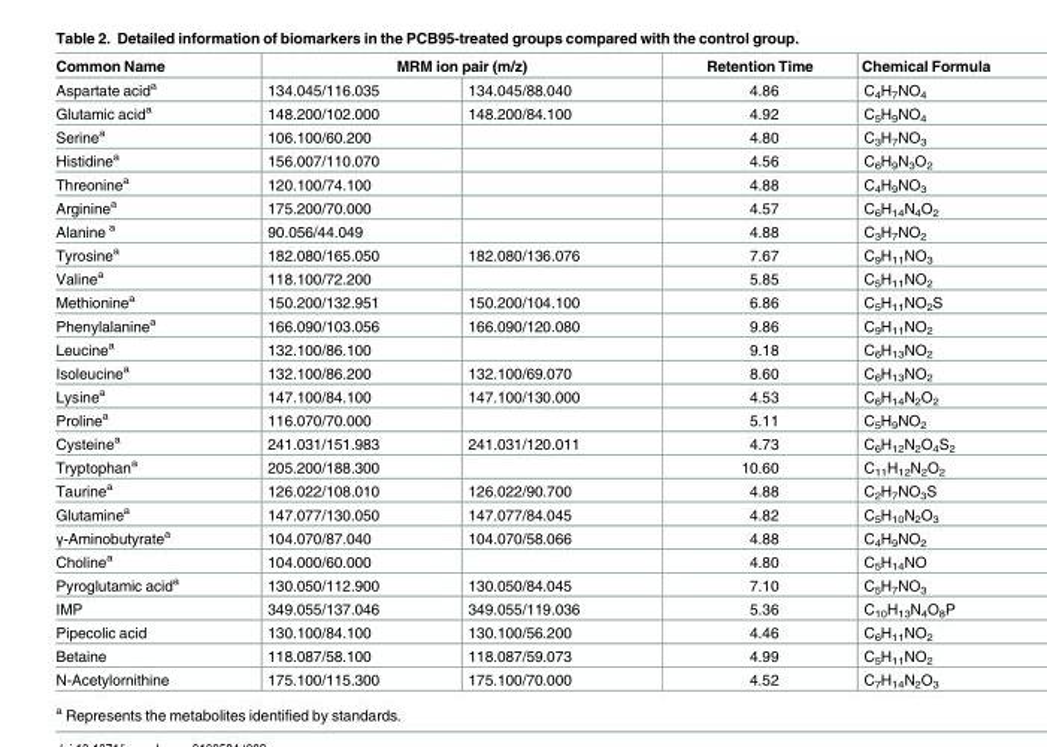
<table><thead><tr><td rowspan="2">Common Name Aspartate acid<sup>a</sup></td><td colspan="2">MRM ion pair (m/z)</td><td rowspan="2">Retention Time 4.86</td><td rowspan="2">Chemical Formula C<sub>4</sub>H<sub>7</sub>NO<sub>4</sub></td></tr><tr><td>134.045/116.035</td><td>134.045/88.040</td></tr></thead><tbody><tr><td>Glutamic acid<sup>a</sup></td><td>148.200/102.000</td><td>148.200/84.100</td><td>4.92</td><td>C<sub>5</sub>H<sub>9</sub>NO<sub>4</sub></td></tr><tr><td>Serine<sup>a</sup></td><td>106.100/60.200</td><td></td><td>4.80</td><td>C<sub>3</sub>H<sub>7</sub>NO<sub>3</sub></td></tr><tr><td>Histidine<sup>a</sup></td><td>156.007/110.070</td><td></td><td>4.56</td><td>C<sub>6</sub>H<sub>9</sub>N<sub>3</sub>O<sub>2</sub></td></tr><tr><td>Threonine<sup>a</sup></td><td>120.100/74.100</td><td></td><td>4.88</td><td>C<sub>4</sub>H<sub>9</sub>NO<sub>3</sub></td></tr><tr><td>Arginine<sup>a</sup></td><td>175.200/70.000</td><td></td><td>4.57</td><td>C<sub>6</sub>H<sub>14</sub>N<sub>4</sub>O<sub>2</sub></td></tr><tr><td>Alanine <sup>a</sup></td><td>90.056/44.049</td><td></td><td>4.88</td><td>C<sub>3</sub>H<sub>7</sub>NO<sub>2</sub></td></tr><tr><td>Tyrosine<sup>a</sup></td><td>182.080/165.050</td><td>182.080/136.076</td><td>7.67</td><td>C<sub>9</sub>H<sub>11</sub>NO<sub>3</sub></td></tr><tr><td>Valine<sup>a</sup></td><td>118.100/72.200</td><td></td><td>5.85</td><td>C<sub>5</sub>H<sub>11</sub>NO<sub>2</sub></td></tr><tr><td>Methionine<sup>a</sup></td><td>150.200/132.951</td><td>150.200/104.100</td><td>6.86</td><td>C<sub>5</sub>H<sub>11</sub>NO<sub>2</sub>S</td></tr><tr><td>Phenylalanine<sup>a</sup></td><td>166.090/103.056</td><td>166.090/120.080</td><td>9.86</td><td>C<sub>9</sub>H<sub>11</sub>NO<sub>2</sub></td></tr><tr><td>Leucine<sup>a</sup></td><td>132.100/86.100</td><td></td><td>9.18</td><td>C<sub>6</sub>H<sub>13</sub>NO<sub>2</sub></td></tr><tr><td>Isoleucine<sup>a</sup></td><td>132.100/86.200</td><td>132.100/69.070</td><td>8.60</td><td>C<sub>6</sub>H<sub>13</sub>NO<sub>2</sub></td></tr><tr><td>Lysine<sup>a</sup></td><td>147.100/84.100</td><td>147.100/130.000</td><td>4.53</td><td>C<sub>6</sub>H<sub>14</sub>N<sub>2</sub>O<sub>2</sub></td></tr><tr><td>Proline<sup>a</sup></td><td>116.070/70.000</td><td></td><td>5.11</td><td>C<sub>5</sub>H<sub>9</sub>NO<sub>2</sub></td></tr><tr><td>Cysteine<sup>a</sup></td><td>241.031/151.983</td><td>241.031/120.011</td><td>4.73</td><td>C<sub>6</sub>H<sub>12</sub>N<sub>2</sub>O<sub>4</sub>S<sub>2</sub></td></tr><tr><td>Tryptophan<sup>a</sup></td><td>205.200/188.300</td><td></td><td>10.60</td><td>C<sub>11</sub>H<sub>12</sub>N<sub>2</sub>O<sub>2</sub></td></tr><tr><td>Taurine<sup>a</sup></td><td>126.022/108.010</td><td>126.022/90.700</td><td>4.88</td><td>C<sub>2</sub>H<sub>7</sub>NO<sub>3</sub>S</td></tr><tr><td>Glutamine<sup>a</sup></td><td>147.077/130.050</td><td>147.077/84.045</td><td>4.82</td><td>C<sub>5</sub>H<sub>10</sub>N<sub>2</sub>O<sub>3</sub></td></tr><tr><td>γ-Aminobutyrate<sup>a</sup></td><td>104.070/87.040</td><td>104.070/58.066</td><td>4.88</td><td>C<sub>4</sub>H<sub>9</sub>NO<sub>2</sub></td></tr><tr><td>Choline<sup>a</sup></td><td>104.000/60.000</td><td></td><td>4.80</td><td>C<sub>5</sub>H<sub>14</sub>NO</td></tr><tr><td>Pyroglutamic acid<sup>a</sup></td><td>130.050/112.900</td><td>130.050/84.045</td><td>7.10</td><td>C<sub>5</sub>H<sub>7</sub>NO<sub>3</sub></td></tr><tr><td>IMP</td><td>349.055/137.046</td><td>349.055/119.036</td><td>5.36</td><td>C<sub>10</sub>H<sub>13</sub>N<sub>4</sub>O<sub>8</sub>P</td></tr><tr><td>Pipecolic acid</td><td>130.100/84.100</td><td>130.100/56.200</td><td>4.46</td><td>C<sub>6</sub>H<sub>11</sub>NO<sub>2</sub></td></tr><tr><td>Betaine</td><td>118.087/58.100</td><td>118.087/59.073</td><td>4.99</td><td>C<sub>5</sub>H<sub>11</sub>NO<sub>2</sub></td></tr><tr><td>N-Acetylornithine</td><td>175.100/115.300</td><td>175.100/70.000</td><td>4.52</td><td>C<sub>7</sub>H<sub>14</sub>N<sub>2</sub>O<sub>3</sub></td></tr></tbody></table>